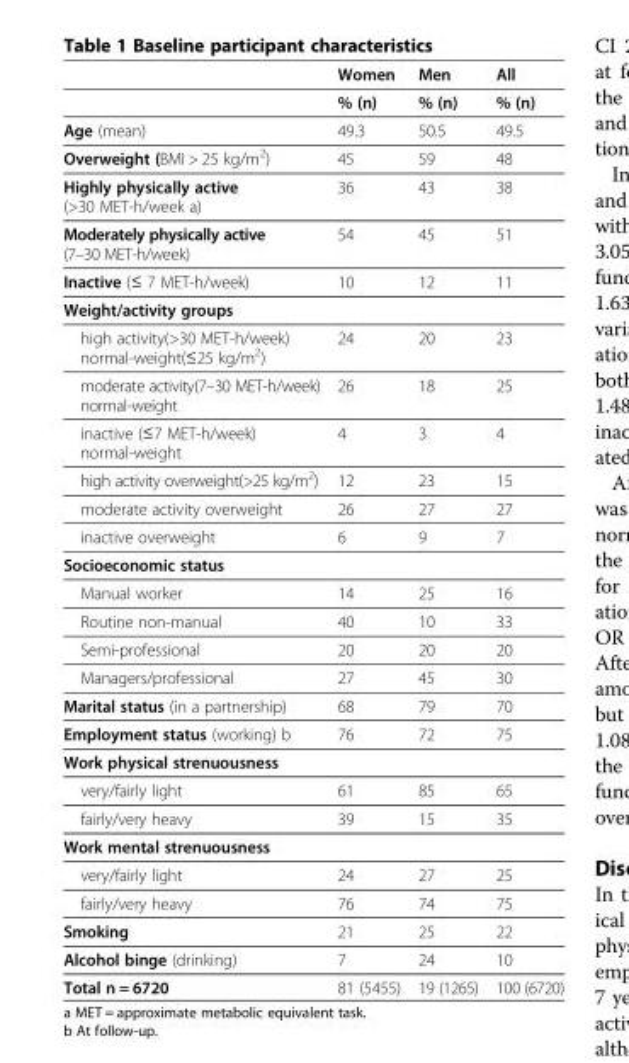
<table><thead><tr><td rowspan="2"></td><td rowspan="2">Women % (n)</td><td rowspan="2">Men % (n)</td><td rowspan="2">All % (n)</td></tr><tr></tr></thead><tbody><tr><td>Age (mean)</td><td>49.3</td><td>50.5</td><td>49.5</td></tr><tr><td>Overweight (BMI &gt; 25 kg/m<sup>2</sup>)</td><td>45</td><td>59</td><td>48</td></tr><tr><td>Highly physically active (&gt;30 MET-h/week a)</td><td>36</td><td>43</td><td>38</td></tr><tr><td>Moderately physically active (7–30 MET-h/week)</td><td>54</td><td>45</td><td>51</td></tr><tr><td>Inactive (≤ 7 MET-h/week)</td><td>10</td><td>12</td><td>11</td></tr><tr><td colspan="4">Weight/activity groups</td></tr><tr><td>high activity(&gt;30 MET-h/week) normal-weight(≤25 kg/m<sup>2</sup>)</td><td>24</td><td>20</td><td>23</td></tr><tr><td>moderate activity(7–30 MET-h/week) normal-weight</td><td>26</td><td>18</td><td>25</td></tr><tr><td>inactive (≤7 MET-h/week) normal-weight</td><td>4</td><td>3</td><td>4</td></tr><tr><td>high activity overweight(&gt;25 kg/m<sup>2</sup>)</td><td>12</td><td>23</td><td>15</td></tr><tr><td>moderate activity overweight</td><td>26</td><td>27</td><td>27</td></tr><tr><td>inactive overweight</td><td>6</td><td>9</td><td>7</td></tr><tr><td colspan="4">Socioeconomic status</td></tr><tr><td>Manual worker</td><td>14</td><td>25</td><td>16</td></tr><tr><td>Routine non-manual</td><td>40</td><td>10</td><td>33</td></tr><tr><td>Semi-professional</td><td>20</td><td>20</td><td>20</td></tr><tr><td>Managers/professional</td><td>27</td><td>45</td><td>30</td></tr><tr><td>Marital status (in a partnership)</td><td>68</td><td>79</td><td>70</td></tr><tr><td>Employment status (working) b</td><td>76</td><td>72</td><td>75</td></tr><tr><td colspan="4">Work physical strenuousness</td></tr><tr><td>very/fairly light</td><td>61</td><td>85</td><td>65</td></tr><tr><td>fairly/very heavy</td><td>39</td><td>15</td><td>35</td></tr><tr><td colspan="4">Work mental strenuousness</td></tr><tr><td>very/fairly light</td><td>24</td><td>27</td><td>25</td></tr><tr><td>fairly/very heavy</td><td>76</td><td>74</td><td>75</td></tr><tr><td>Smoking</td><td>21</td><td>25</td><td>22</td></tr><tr><td>Alcohol binge (drinking)</td><td>7</td><td>24</td><td>10</td></tr><tr><td>Total n = 6720</td><td>81 (5455)</td><td>19 (1265)</td><td>100 (6720)</td></tr></tbody></table>